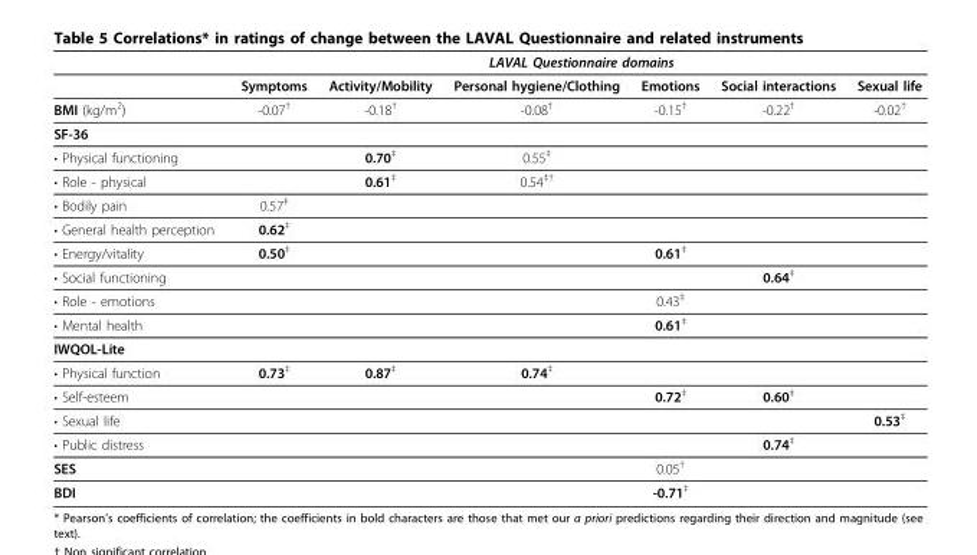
<table><thead><tr><td rowspan="2"></td><td colspan="6">LAVAL Questionnaire domains</td></tr><tr><td>Symptoms</td><td>Activity/Mobility</td><td>Personal hygiene/Clothing</td><td>Emotions</td><td>Social interactions</td><td>Sexual life</td></tr></thead><tbody><tr><td>BMI (kg/m2)</td><td>-0.07†</td><td>-0.18†</td><td>-0.08†</td><td>-0.15†</td><td>-0.22†</td><td>-0.02†</td></tr><tr><td colspan="7">SF-36</td></tr><tr><td>• Physical functioning</td><td></td><td>0.70‡</td><td>0.55‡</td><td></td><td></td><td></td></tr><tr><td>• Role - physical</td><td></td><td>0.61‡</td><td>0.54‡†</td><td></td><td></td><td></td></tr><tr><td>• Bodily pain</td><td>0.57‡</td><td></td><td></td><td></td><td></td><td></td></tr><tr><td>• General health perception</td><td>0.62‡</td><td></td><td></td><td></td><td></td><td></td></tr><tr><td>• Energy/vitality</td><td>0.50‡</td><td></td><td></td><td>0.61‡</td><td></td><td></td></tr><tr><td>• Social functioning</td><td></td><td></td><td></td><td></td><td>0.64‡</td><td></td></tr><tr><td>• Role - emotions</td><td></td><td></td><td></td><td>0.43‡</td><td></td><td></td></tr><tr><td>• Mental health</td><td></td><td></td><td></td><td>0.61‡</td><td></td><td></td></tr><tr><td colspan="7">IWQOL-Lite</td></tr><tr><td>• Physical function</td><td>0.73‡</td><td>0.87‡</td><td>0.74‡</td><td></td><td></td><td></td></tr><tr><td>• Self-esteem</td><td></td><td></td><td></td><td>0.72‡</td><td>0.60‡</td><td></td></tr><tr><td>• Sexual life</td><td></td><td></td><td></td><td></td><td></td><td>0.53‡</td></tr><tr><td>• Public distress</td><td></td><td></td><td></td><td></td><td>0.74‡</td><td></td></tr><tr><td>SES</td><td></td><td></td><td></td><td>0.05†</td><td></td><td></td></tr><tr><td>BDI</td><td></td><td></td><td></td><td>-0.71‡</td><td></td><td></td></tr></tbody></table>